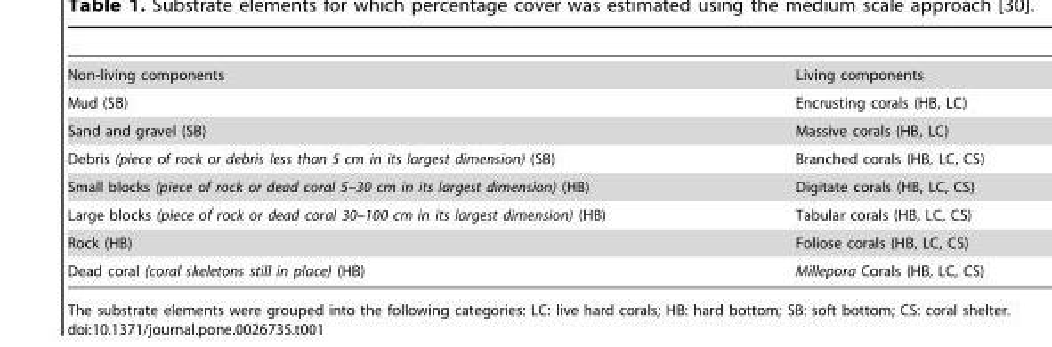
<table><tbody><tr><td>Non-living components</td><td>Living components</td></tr><tr><td>Mud (SB)</td><td>Encrusting corals (HB, LC)</td></tr><tr><td>Sand and gravel (SB)</td><td>Massive corals (HB, LC)</td></tr><tr><td>Debris (piece of rock or debris less than 5 cm in its largest dimension) (SB)</td><td>Branched corals (HB, LC, CS)</td></tr><tr><td>Small blocks (piece of rock or dead coral 5–30 cm in its largest dimension) (HB)</td><td>Digitate corals (HB, LC, CS)</td></tr><tr><td>Large blocks (piece of rock or dead coral 30–100 cm in its largest dimension) (HB)</td><td>Tabular corals (HB, LC, CS)</td></tr><tr><td>Rock (HB)</td><td>Foliose corals (HB, LC, CS)</td></tr><tr><td>Dead coral (coral skeletons still in place) (HB)</td><td>Millepora Corals (HB, LC, CS)</td></tr></tbody></table>